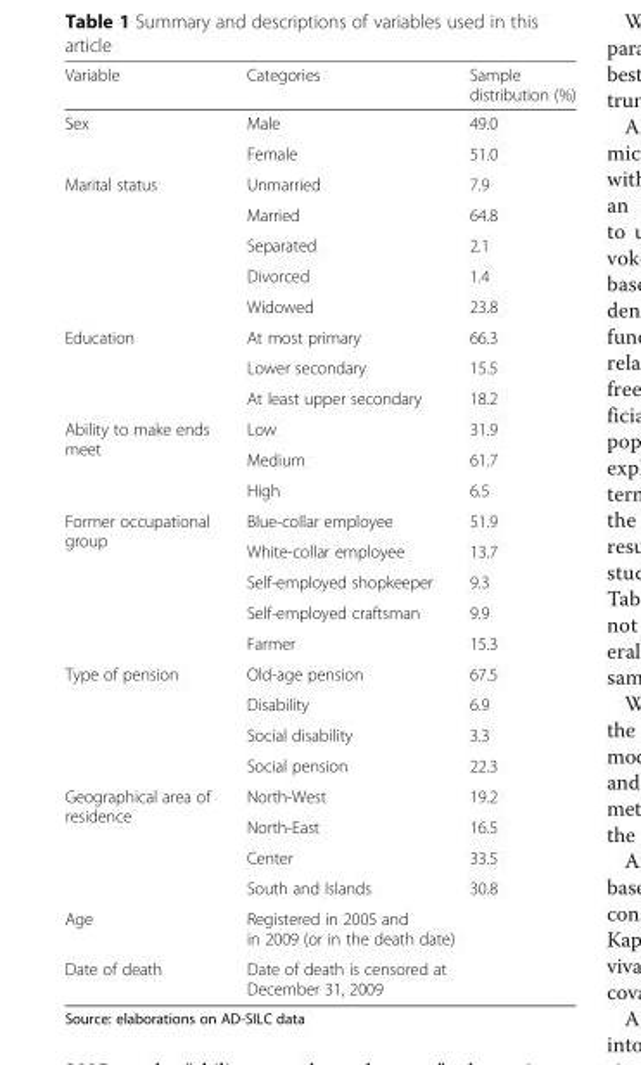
<table><thead><tr><td>Variable</td><td>Categories</td><td>Sample distribution (%)</td></tr></thead><tbody><tr><td rowspan="2">Sex</td><td>Male</td><td>49.0</td></tr><tr><td>Female</td><td>51.0</td></tr><tr><td rowspan="5">Marital status</td><td>Unmarried</td><td>7.9</td></tr><tr><td>Married</td><td>64.8</td></tr><tr><td>Separated</td><td>2.1</td></tr><tr><td>Divorced</td><td>1.4</td></tr><tr><td>Widowed</td><td>23.8</td></tr><tr><td rowspan="3">Education</td><td>At most primary</td><td>66.3</td></tr><tr><td>Lower secondary</td><td>15.5</td></tr><tr><td>At least upper secondary</td><td>18.2</td></tr><tr><td rowspan="3">Ability to make ends meet</td><td>Low</td><td>31.9</td></tr><tr><td>Medium</td><td>61.7</td></tr><tr><td>High</td><td>6.5</td></tr><tr><td rowspan="5">Former occupational group</td><td>Blue-collar employee</td><td>51.9</td></tr><tr><td>White-collar employee</td><td>13.7</td></tr><tr><td>Self-employed shopkeeper</td><td>9.3</td></tr><tr><td>Self-employed craftsman</td><td>9.9</td></tr><tr><td>Farmer</td><td>15.3</td></tr><tr><td rowspan="4">Type of pension</td><td>Old-age pension</td><td>67.5</td></tr><tr><td>Disability</td><td>6.9</td></tr><tr><td>Social disability</td><td>3.3</td></tr><tr><td>Social pension</td><td>22.3</td></tr><tr><td rowspan="4">Geographical area of residence</td><td>North-West</td><td>19.2</td></tr><tr><td>North-East</td><td>16.5</td></tr><tr><td>Center</td><td>33.5</td></tr><tr><td>South and Islands</td><td>30.8</td></tr><tr><td>Age</td><td colspan="2">Registered in 2005 and in 2009 (or in the death date)</td></tr><tr><td>Date of death</td><td colspan="2">Date of death is censored at December 31, 2009</td></tr></tbody></table>